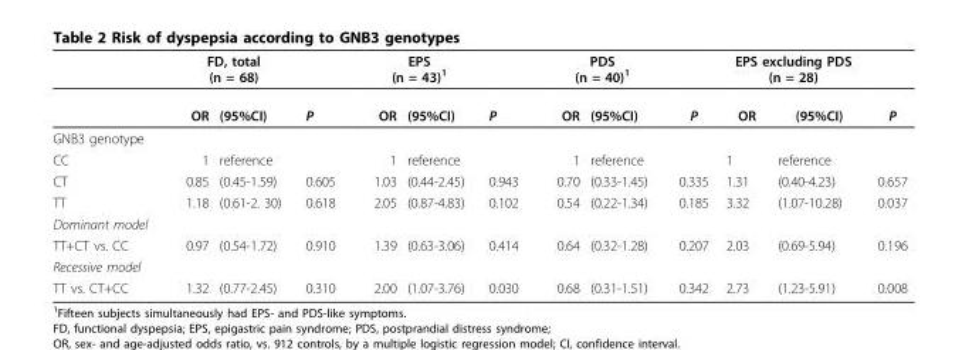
<table><thead><tr><td rowspan="2"></td><td colspan="2">FD, total (n = 68)</td><td rowspan="2">P</td><td colspan="2">EPS (n = 43)<sup>1</sup></td><td rowspan="2">P</td><td colspan="2">PDS (n = 40)<sup>1</sup></td><td rowspan="2">P</td><td colspan="2">EPS excluding PDS (n = 28)</td><td rowspan="2">P</td></tr><tr><td>OR</td><td>(95%CI)</td><td>OR</td><td>(95%CI)</td><td>OR</td><td>(95%CI)</td><td>OR</td><td>(95%CI)</td></tr></thead><tbody><tr><td colspan="13">GNB3 genotype</td></tr><tr><td>CC</td><td>1</td><td>reference</td><td></td><td>1</td><td>reference</td><td></td><td>1</td><td>reference</td><td></td><td>1</td><td>reference</td><td></td></tr><tr><td>CT</td><td>0.85</td><td>(0.45-1.59)</td><td>0.605</td><td>1.03</td><td>(0.44-2.45)</td><td>0.943</td><td>0.70</td><td>(0.33-1.45)</td><td>0.335</td><td>1.31</td><td>(0.40-4.23)</td><td>0.657</td></tr><tr><td>TT</td><td>1.18</td><td>(0.61-2. 30)</td><td>0.618</td><td>2.05</td><td>(0.87-4.83)</td><td>0.102</td><td>0.54</td><td>(0.22-1.34)</td><td>0.185</td><td>3.32</td><td>(1.07-10.28)</td><td>0.037</td></tr><tr><td colspan="13">Dominant model</td></tr><tr><td>TT+CT vs. CC</td><td>0.97</td><td>(0.54-1.72)</td><td>0.910</td><td>1.39</td><td>(0.63-3.06)</td><td>0.414</td><td>0.64</td><td>(0.32-1.28)</td><td>0.207</td><td>2.03</td><td>(0.69-5.94)</td><td>0.196</td></tr><tr><td colspan="13">Recessive model</td></tr><tr><td>TT vs. CT+CC</td><td>1.32</td><td>(0.77-2.45)</td><td>0.310</td><td>2.00</td><td>(1.07-3.76)</td><td>0.030</td><td>0.68</td><td>(0.31-1.51)</td><td>0.342</td><td>2.73</td><td>(1.23-5.91)</td><td>0.008</td></tr></tbody></table>